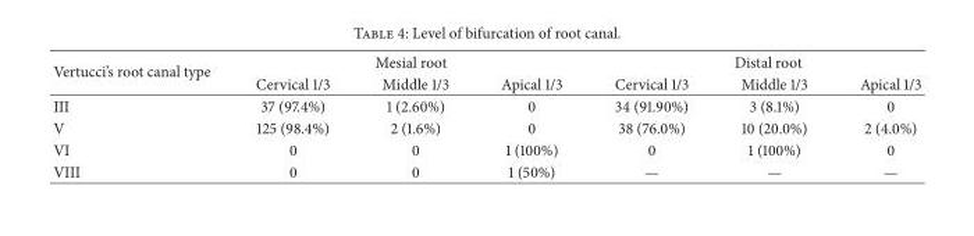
<table><thead><tr><td rowspan="2">Vertucci’s root canal type</td><td colspan="3">Mesial root</td><td colspan="3">Distal root</td></tr><tr><td>Cervical 1/3</td><td>Middle 1/3</td><td>Apical 1/3</td><td>Cervical 1/3</td><td>Middle 1/3</td><td>Apical 1/3</td></tr></thead><tbody><tr><td>III</td><td>37 (97.4%)</td><td>1 (2.60%)</td><td>0</td><td>34 (91.90%)</td><td>3 (8.1%)</td><td>0</td></tr><tr><td>V</td><td>125 (98.4%)</td><td>2 (1.6%)</td><td>0</td><td>38 (76.0%)</td><td>10 (20.0%)</td><td>2 (4.0%)</td></tr><tr><td>VI</td><td>0</td><td>0</td><td>1 (100%)</td><td>0</td><td>1 (100%)</td><td>0</td></tr><tr><td>VIII</td><td>0</td><td>0</td><td>1 (50%)</td><td>—</td><td>—</td><td>—</td></tr></tbody></table>